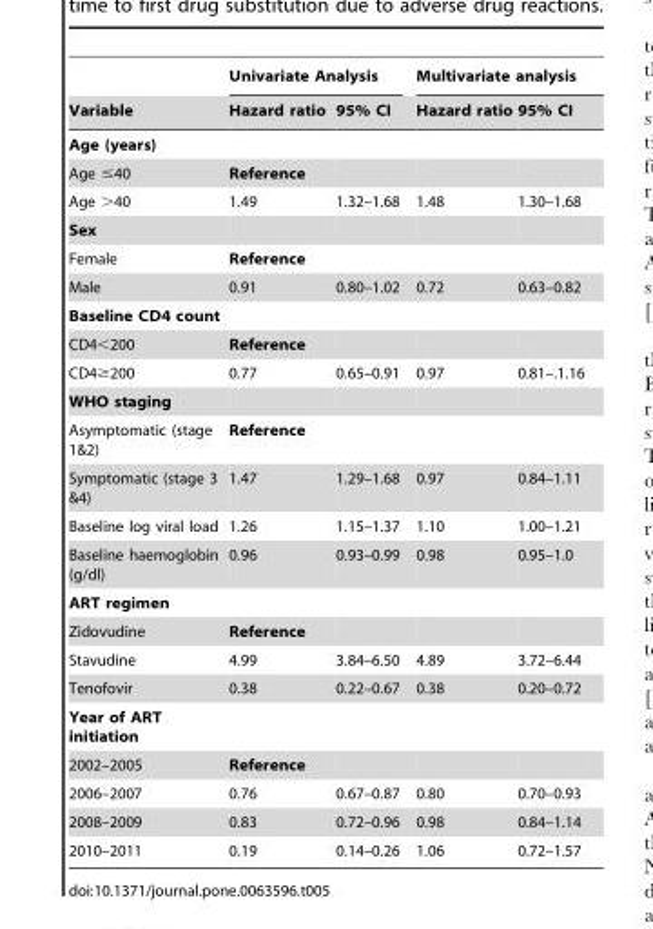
<table><thead><tr><td rowspan="2">Variable</td><td colspan="2">Univariate Analysis</td><td colspan="2">Multivariate analysis</td></tr><tr><td>Hazard ratio</td><td>95% CI</td><td>Hazard ratio</td><td>95% CI</td></tr></thead><tbody><tr><td colspan="5">Age (years)</td></tr><tr><td>Age ≤40</td><td>Reference</td><td></td><td></td><td></td></tr><tr><td>Age &gt;40</td><td>1.49</td><td>1.32–1.68</td><td>1.48</td><td>1.30–1.68</td></tr><tr><td colspan="5">Sex</td></tr><tr><td>Female</td><td>Reference</td><td></td><td></td><td></td></tr><tr><td>Male</td><td>0.91</td><td>0.80–1.02</td><td>0.72</td><td>0.63–0.82</td></tr><tr><td colspan="5">Baseline CD4 count</td></tr><tr><td>CD4&lt;200</td><td>Reference</td><td></td><td></td><td></td></tr><tr><td>CD4≥200</td><td>0.77</td><td>0.65–0.91</td><td>0.97</td><td>0.81–.1.16</td></tr><tr><td colspan="5">WHO staging</td></tr><tr><td>Asymptomatic (stage 1&amp;2)</td><td>Reference</td><td></td><td></td><td></td></tr><tr><td>Symptomatic (stage 3 &amp;4)</td><td>1.47</td><td>1.29–1.68</td><td>0.97</td><td>0.84–1.11</td></tr><tr><td>Baseline log viral load</td><td>1.26</td><td>1.15–1.37</td><td>1.10</td><td>1.00–1.21</td></tr><tr><td>Baseline haemoglobin (g/dl)</td><td>0.96</td><td>0.93–0.99</td><td>0.98</td><td>0.95–1.0</td></tr><tr><td colspan="5">ART regimen</td></tr><tr><td>Zidovudine</td><td>Reference</td><td></td><td></td><td></td></tr><tr><td>Stavudine</td><td>4.99</td><td>3.84–6.50</td><td>4.89</td><td>3.72–6.44</td></tr><tr><td>Tenofovir</td><td>0.38</td><td>0.22–0.67</td><td>0.38</td><td>0.20–0.72</td></tr><tr><td colspan="5">Year of ART initiation</td></tr><tr><td>2002–2005</td><td>Reference</td><td></td><td></td><td></td></tr><tr><td>2006–2007</td><td>0.76</td><td>0.67–0.87</td><td>0.80</td><td>0.70–0.93</td></tr><tr><td>2008–2009</td><td>0.83</td><td>0.72–0.96</td><td>0.98</td><td>0.84–1.14</td></tr><tr><td>2010–2011</td><td>0.19</td><td>0.14–0.26</td><td>1.06</td><td>0.72–1.57</td></tr></tbody></table>